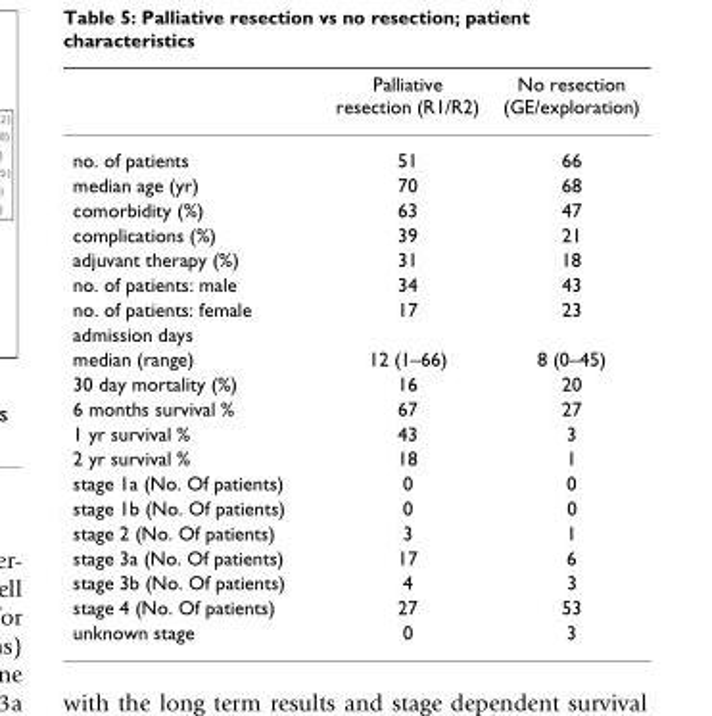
<table><thead><tr><td></td><td>Palliative resection (R1/R2)</td><td>No resection (GE/exploration)</td></tr></thead><tbody><tr><td>no. of patients</td><td>51</td><td>66</td></tr><tr><td>median age (yr)</td><td>70</td><td>68</td></tr><tr><td>comorbidity (%)</td><td>63</td><td>47</td></tr><tr><td>complications (%)</td><td>39</td><td>21</td></tr><tr><td>adjuvant therapy (%)</td><td>31</td><td>18</td></tr><tr><td>no. of patients: male</td><td>34</td><td>43</td></tr><tr><td>no. of patients: female</td><td>17</td><td>23</td></tr><tr><td colspan="3">admission days</td></tr><tr><td>median (range)</td><td>12 (1–66)</td><td>8 (0–45)</td></tr><tr><td>30 day mortality (%)</td><td>16</td><td>20</td></tr><tr><td>6 months survival %</td><td>67</td><td>27</td></tr><tr><td>1 yr survival %</td><td>43</td><td>3</td></tr><tr><td>2 yr survival %</td><td>18</td><td>1</td></tr><tr><td>stage 1a (No. Of patients)</td><td>0</td><td>0</td></tr><tr><td>stage 1b (No. Of patients)</td><td>0</td><td>0</td></tr><tr><td>stage 2 (No. Of patients)</td><td>3</td><td>1</td></tr><tr><td>stage 3a (No. Of patients)</td><td>17</td><td>6</td></tr><tr><td>stage 3b (No. Of patients)</td><td>4</td><td>3</td></tr><tr><td>stage 4 (No. Of patients)</td><td>27</td><td>53</td></tr><tr><td>unknown stage</td><td>0</td><td>3</td></tr></tbody></table>